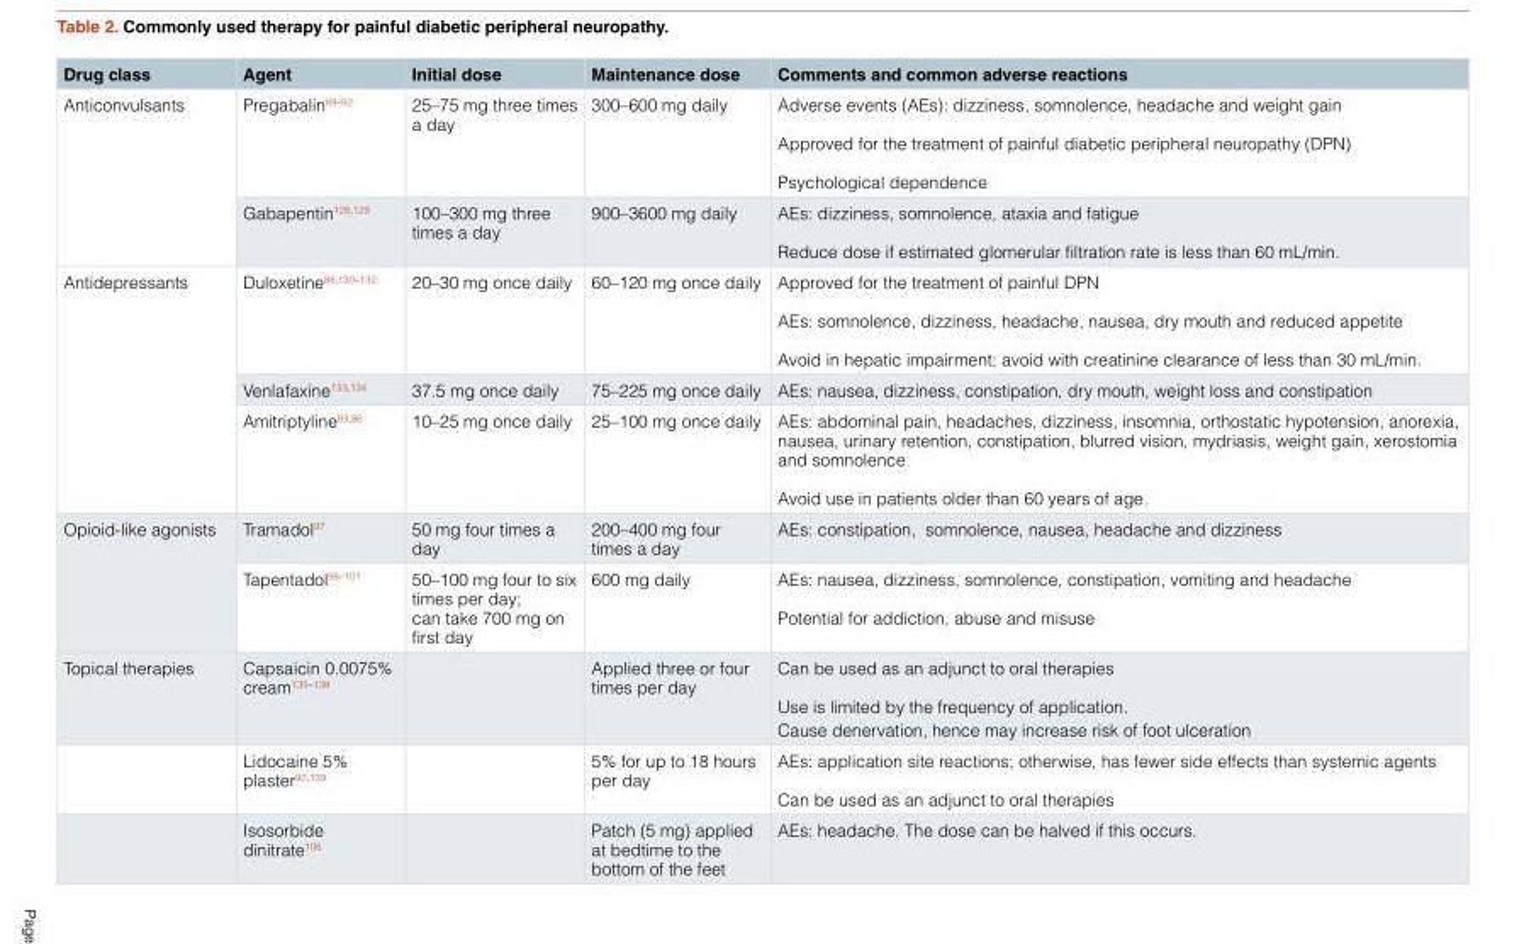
<table><thead><tr><td>Drug class</td><td>Agent</td><td>Initial dose</td><td>Maintenance dose</td><td>Comments and common adverse reactions</td></tr></thead><tbody><tr><td rowspan="2">Anticonvulsants</td><td>Pregabalin<sup>89–92</sup></td><td>25–75 mg three times a day</td><td>300–600 mg daily</td><td>Adverse events (AEs): dizziness, somnolence, headache and weight gain Approved for the treatment of painful diabetic peripheral neuropathy (DPN) Psychological dependence</td></tr><tr><td>Gabapentin<sup>128,129</sup></td><td>100–300 mg three times a day</td><td>900–3600 mg daily</td><td>AEs: dizziness, somnolence, ataxia and fatigue Reduce dose if estimated glomerular filtration rate is less than 60 mL/min.</td></tr><tr><td rowspan="3">Antidepressants</td><td>Duloxetine<sup>88,130–132</sup></td><td>20–30 mg once daily</td><td>60–120 mg once daily</td><td>Approved for the treatment of painful DPN AEs: somnolence, dizziness, headache, nausea, dry mouth and reduced appetite Avoid in hepatic impairment; avoid with creatinine clearance of less than 30 mL/min.</td></tr><tr><td>Venlafaxine<sup>133,134</sup></td><td>37.5 mg once daily</td><td>75–225 mg once daily</td><td>AEs: nausea, dizziness, constipation, dry mouth, weight loss and constipation</td></tr><tr><td>Amitriptyline<sup>83,86</sup></td><td>10–25 mg once daily</td><td>25–100 mg once daily</td><td>AEs: abdominal pain, headaches, dizziness, insomnia, orthostatic hypotension, anorexia, nausea, urinary retention, constipation, blurred vision, mydriasis, weight gain, xerostomia and somnolence Avoid use in patients older than 60 years of age.</td></tr><tr><td rowspan="2">Opioid-like agonists</td><td>Tramadol<sup>97</sup></td><td>50 mg four times a day</td><td>200–400 mg four times a day</td><td>AEs: constipation, somnolence, nausea, headache and dizziness</td></tr><tr><td>Tapentadol<sup>98–101</sup></td><td>50–100 mg four to six times per day; can take 700 mg on first day</td><td>600 mg daily</td><td>AEs: nausea, dizziness, somnolence, constipation, vomiting and headache Potential for addiction, abuse and misuse</td></tr><tr><td rowspan="3">Topical therapies</td><td>Capsaicin 0.0075% cream<sup>135–138</sup></td><td></td><td>Applied three or four times per day</td><td>Can be used as an adjunct to oral therapies Use is limited by the frequency of application. Cause denervation, hence may increase risk of foot ulceration</td></tr><tr><td>Lidocaine 5% plaster<sup>92,139</sup></td><td></td><td>5% for up to 18 hours per day</td><td>AEs: application site reactions; otherwise, has fewer side effects than systemic agents Can be used as an adjunct to oral therapies</td></tr><tr><td>Isosorbide dinitrate<sup>106</sup></td><td></td><td>Patch (5 mg) applied at bedtime to the bottom of the feet</td><td>AEs: headache. The dose can be halved if this occurs.</td></tr></tbody></table>